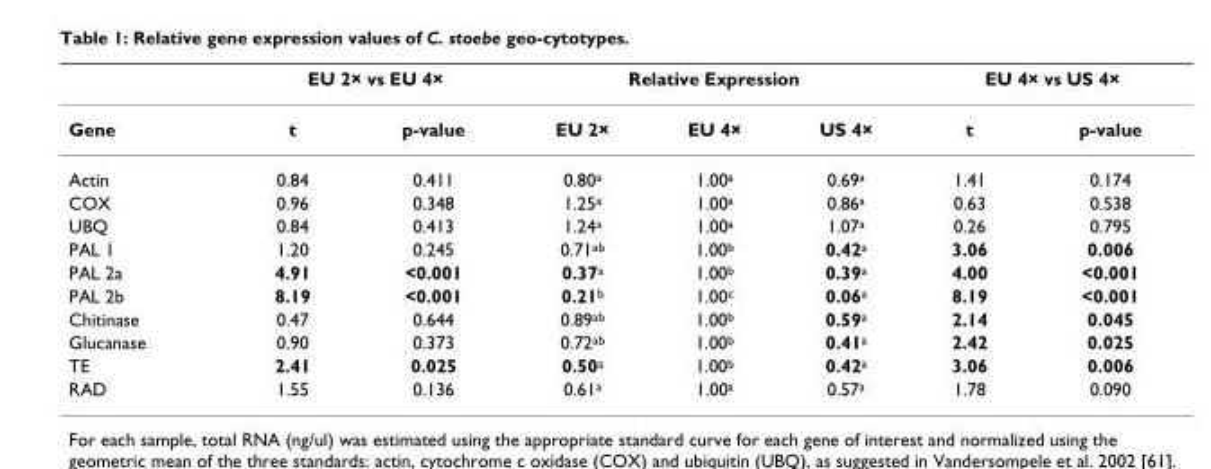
<table><thead><tr><td rowspan="2">Gene</td><td colspan="2">EU 2× vs EU 4×</td><td colspan="3">Relative Expression</td><td colspan="2">EU 4× vs US 4×</td></tr><tr><td>t</td><td>p-value</td><td>EU 2×</td><td>EU 4×</td><td>US 4×</td><td>t</td><td>p-value</td></tr></thead><tbody><tr><td>Actin</td><td>0.84</td><td>0.411</td><td>0.80<sup>a</sup></td><td>1.00<sup>a</sup></td><td>0.69<sup>a</sup></td><td>1.41</td><td>0.174</td></tr><tr><td>COX</td><td>0.96</td><td>0.348</td><td>1.25<sup>a</sup></td><td>1.00<sup>a</sup></td><td>0.86<sup>a</sup></td><td>0.63</td><td>0.538</td></tr><tr><td>UBQ</td><td>0.84</td><td>0.413</td><td>1.24<sup>a</sup></td><td>1.00<sup>a</sup></td><td>1.07<sup>a</sup></td><td>0.26</td><td>0.795</td></tr><tr><td>PAL 1</td><td>1.20</td><td>0.245</td><td>0.71<sup>ab</sup></td><td>1.00<sup>b</sup></td><td>0.42<sup>a</sup></td><td>3.06</td><td>0.006</td></tr><tr><td>PAL 2a</td><td>4.91</td><td>&lt;0.001</td><td>0.37<sup>a</sup></td><td>1.00<sup>b</sup></td><td>0.39<sup>a</sup></td><td>4.00</td><td>&lt;0.001</td></tr><tr><td>PAL 2b</td><td>8.19</td><td>&lt;0.001</td><td>0.21<sup>b</sup></td><td>1.00<sup>c</sup></td><td>0.06<sup>a</sup></td><td>8.19</td><td>&lt;0.001</td></tr><tr><td>Chitinase</td><td>0.47</td><td>0.644</td><td>0.89<sup>ab</sup></td><td>1.00<sup>b</sup></td><td>0.59<sup>a</sup></td><td>2.14</td><td>0.045</td></tr><tr><td>Glucanase</td><td>0.90</td><td>0.373</td><td>0.72<sup>ab</sup></td><td>1.00<sup>b</sup></td><td>0.41<sup>a</sup></td><td>2.42</td><td>0.025</td></tr><tr><td>TE</td><td>2.41</td><td>0.025</td><td>0.50<sup>a</sup></td><td>1.00<sup>b</sup></td><td>0.42<sup>a</sup></td><td>3.06</td><td>0.006</td></tr><tr><td>RAD</td><td>1.55</td><td>0.136</td><td>0.61<sup>a</sup></td><td>1.00<sup>a</sup></td><td>0.57<sup>a</sup></td><td>1.78</td><td>0.090</td></tr></tbody></table>